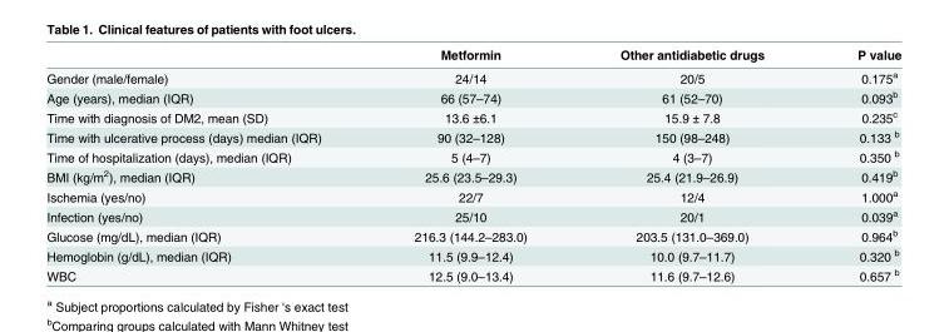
<table><thead><tr><td></td><td>Metformin</td><td>Other antidiabetic drugs</td><td>P value</td></tr></thead><tbody><tr><td>Gender (male/female)</td><td>24/14</td><td>20/5</td><td>0.175<sup>a</sup></td></tr><tr><td>Age (years), median (IQR)</td><td>66 (57–74)</td><td>61 (52–70)</td><td>0.093<sup>b</sup></td></tr><tr><td>Time with diagnosis of DM2, mean (SD)</td><td>13.6 ±6.1</td><td>15.9 ± 7.8</td><td>0.235<sup>c</sup></td></tr><tr><td>Time with ulcerative process (days) median (IQR)</td><td>90 (32–128)</td><td>150 (98–248)</td><td>0.133 <sup>b</sup></td></tr><tr><td>Time of hospitalization (days), median (IQR)</td><td>5 (4–7)</td><td>4 (3–7)</td><td>0.350 <sup>b</sup></td></tr><tr><td>BMI (kg/m<sup>2</sup>), median (IQR)</td><td>25.6 (23.5–29.3)</td><td>25.4 (21.9–26.9)</td><td>0.419<sup>b</sup></td></tr><tr><td>Ischemia (yes/no)</td><td>22/7</td><td>12/4</td><td>1.000<sup>a</sup></td></tr><tr><td>Infection (yes/no)</td><td>25/10</td><td>20/1</td><td>0.039<sup>a</sup></td></tr><tr><td>Glucose (mg/dL), median (IQR)</td><td>216.3 (144.2–283.0)</td><td>203.5 (131.0–369.0)</td><td>0.964<sup>b</sup></td></tr><tr><td>Hemoglobin (g/dL), median (IQR)</td><td>11.5 (9.9–12.4)</td><td>10.0 (9.7–11.7)</td><td>0.320 <sup>b</sup></td></tr><tr><td>WBC</td><td>12.5 (9.0–13.4)</td><td>11.6 (9.7–12.6)</td><td>0.657 <sup>b</sup></td></tr></tbody></table>